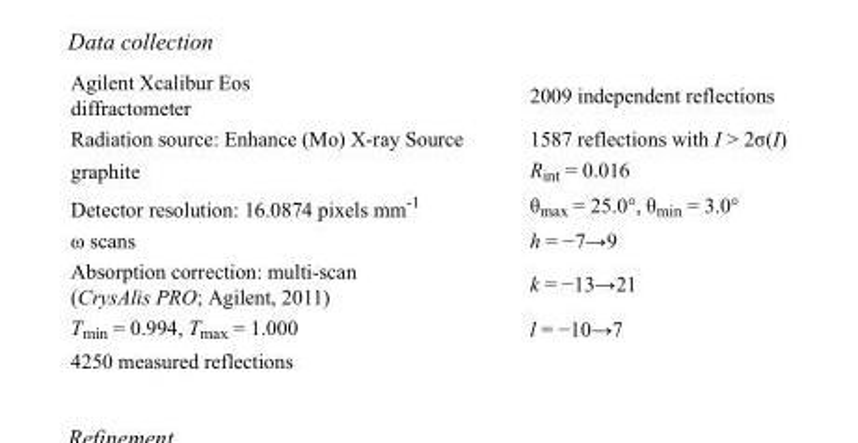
<table><tbody><tr><td>Agilent Xcalibur Eos diffractometer</td><td>2009 independent reflections</td></tr><tr><td>Radiation source: Enhance (Mo) X-ray Source</td><td>1587 reflections with I &gt; 2σ(I)</td></tr><tr><td>graphite</td><td>R<sub>int</sub> = 0.016</td></tr><tr><td>Detector resolution: 16.0874 pixels mm<sup>-1</sup></td><td>θ<sub>max</sub> = 25.0°, θ<sub>min</sub> = 3.0°</td></tr><tr><td>ω scans</td><td>h = −7→9</td></tr><tr><td>Absorption correction: multi-scan (CrysAlis PRO; Agilent, 2011)</td><td>k = −13→21</td></tr><tr><td>T<sub>min</sub> = 0.994, T<sub>max</sub> = 1.000</td><td>l = −10→7</td></tr><tr><td>4250 measured reflections</td><td></td></tr></tbody></table>